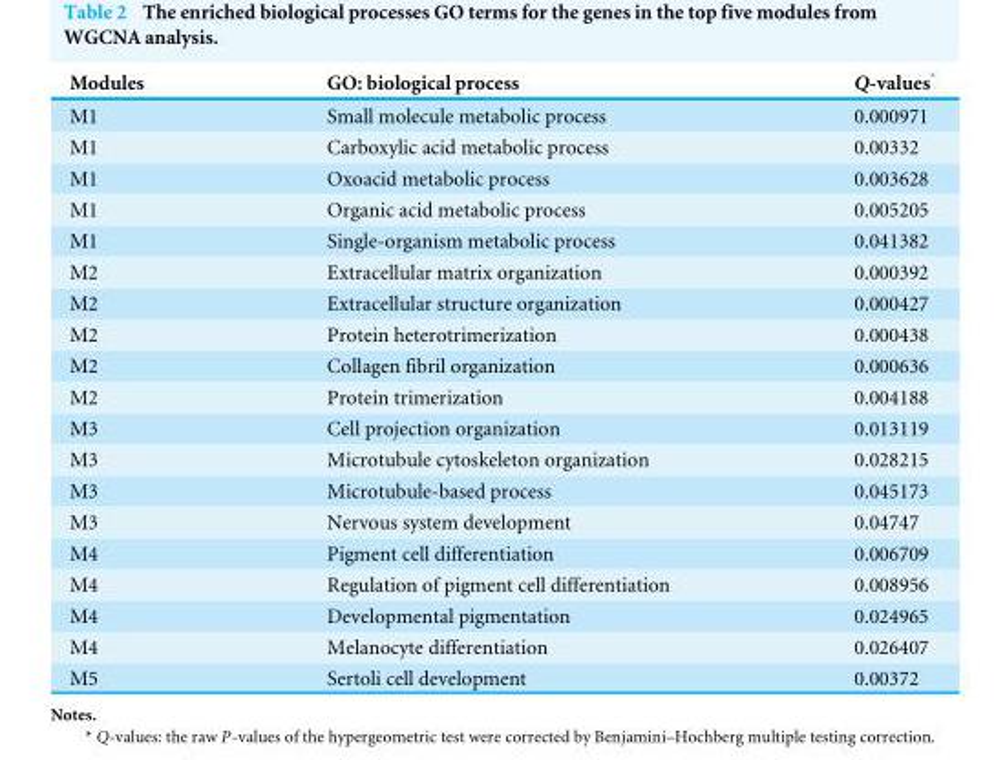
<table><thead><tr><td>Modules</td><td>GO: biological process</td><td>Q-values*</td></tr></thead><tbody><tr><td>M1</td><td>Small molecule metabolic process</td><td>0.000971</td></tr><tr><td>M1</td><td>Carboxylic acid metabolic process</td><td>0.00332</td></tr><tr><td>M1</td><td>Oxoacid metabolic process</td><td>0.003628</td></tr><tr><td>M1</td><td>Organic acid metabolic process</td><td>0.005205</td></tr><tr><td>M1</td><td>Single-organism metabolic process</td><td>0.041382</td></tr><tr><td>M2</td><td>Extracellular matrix organization</td><td>0.000392</td></tr><tr><td>M2</td><td>Extracellular structure organization</td><td>0.000427</td></tr><tr><td>M2</td><td>Protein heterotrimerization</td><td>0.000438</td></tr><tr><td>M2</td><td>Collagen fibril organization</td><td>0.000636</td></tr><tr><td>M2</td><td>Protein trimerization</td><td>0.004188</td></tr><tr><td>M3</td><td>Cell projection organization</td><td>0.013119</td></tr><tr><td>M3</td><td>Microtubule cytoskeleton organization</td><td>0.028215</td></tr><tr><td>M3</td><td>Microtubule-based process</td><td>0.045173</td></tr><tr><td>M3</td><td>Nervous system development</td><td>0.04747</td></tr><tr><td>M4</td><td>Pigment cell differentiation</td><td>0.006709</td></tr><tr><td>M4</td><td>Regulation of pigment cell differentiation</td><td>0.008956</td></tr><tr><td>M4</td><td>Developmental pigmentation</td><td>0.024965</td></tr><tr><td>M4</td><td>Melanocyte differentiation</td><td>0.026407</td></tr><tr><td>M5</td><td>Sertoli cell development</td><td>0.00372</td></tr></tbody></table>